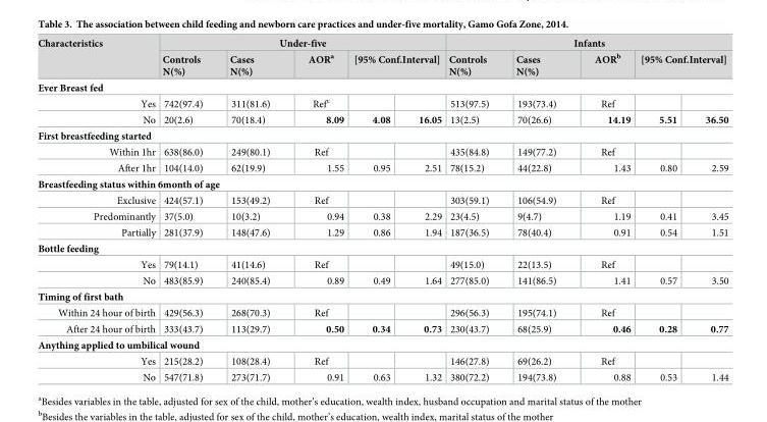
<table><thead><tr><td rowspan="2">Characteristics</td><td colspan="5">Under-five</td><td colspan="5">Infants</td></tr><tr><td>Controls N(%)</td><td>Cases N(%)</td><td>AOR<sup>a</sup></td><td colspan="2">[95% Conf.Interval]</td><td>Controls N(%)</td><td>Cases N(%)</td><td>AOR<sup>b</sup></td><td colspan="2">[95% Conf.Interval]</td></tr><tr><td colspan="11">Ever Breast fed</td></tr><tr><td>Yes</td><td>742(97.4)</td><td>311(81.6)</td><td>Ref<sup>c</sup></td><td></td><td></td><td>513(97.5)</td><td>193(73.4)</td><td>Ref</td><td></td><td></td></tr></thead><tbody><tr><td>No</td><td>20(2.6)</td><td>70(18.4)</td><td>8.09</td><td>4.08</td><td>16.05</td><td>13(2.5)</td><td>70(26.6)</td><td>14.19</td><td>5.51</td><td>36.50</td></tr><tr><td colspan="11">First breastfeeding started</td></tr><tr><td>Within 1hr</td><td>638(86.0)</td><td>249(80.1)</td><td>Ref</td><td></td><td></td><td>435(84.8)</td><td>149(77.2)</td><td>Ref</td><td></td><td></td></tr><tr><td>After 1hr</td><td>104(14.0)</td><td>62(19.9)</td><td>1.55</td><td>0.95</td><td>2.51</td><td>78(15.2)</td><td>44(22.8)</td><td>1.43</td><td>0.80</td><td>2.59</td></tr><tr><td colspan="11">Breastfeeding status within 6month of age</td></tr><tr><td>Exclusive</td><td>424(57.1)</td><td>153(49.2)</td><td>Ref</td><td></td><td></td><td>303(59.1)</td><td>106(54.9)</td><td>Ref</td><td></td><td></td></tr><tr><td>Predominantly</td><td>37(5.0)</td><td>10(3.2)</td><td>0.94</td><td>0.38</td><td>2.29</td><td>23(4.5)</td><td>9(4.7)</td><td>1.19</td><td>0.41</td><td>3.45</td></tr><tr><td>Partially</td><td>281(37.9)</td><td>148(47.6)</td><td>1.29</td><td>0.86</td><td>1.94</td><td>187(36.5)</td><td>78(40.4)</td><td>0.91</td><td>0.54</td><td>1.51</td></tr><tr><td colspan="11">Bottle feeding</td></tr><tr><td>Yes</td><td>79(14.1)</td><td>41(14.6)</td><td>Ref</td><td></td><td></td><td>49(15.0)</td><td>22(13.5)</td><td>Ref</td><td></td><td></td></tr><tr><td>No</td><td>483(85.9)</td><td>240(85.4)</td><td>0.89</td><td>0.49</td><td>1.64</td><td>277(85.0)</td><td>141(86.5)</td><td>1.41</td><td>0.57</td><td>3.50</td></tr><tr><td colspan="11">Timing of first bath</td></tr><tr><td>Within 24 hour of birth</td><td>429(56.3)</td><td>268(70.3)</td><td>Ref</td><td></td><td></td><td>296(56.3)</td><td>195(74.1)</td><td>Ref</td><td></td><td></td></tr><tr><td>After 24 hour of birth</td><td>333(43.7)</td><td>113(29.7)</td><td>0.50</td><td>0.34</td><td>0.73</td><td>230(43.7)</td><td>68(25.9)</td><td>0.46</td><td>0.28</td><td>0.77</td></tr><tr><td colspan="11">Anything applied to umbilical wound</td></tr><tr><td>Yes</td><td>215(28.2)</td><td>108(28.4)</td><td>Ref</td><td></td><td></td><td>146(27.8)</td><td>69(26.2)</td><td>Ref</td><td></td><td></td></tr><tr><td>No</td><td>547(71.8)</td><td>273(71.7)</td><td>0.91</td><td>0.63</td><td>1.32</td><td>380(72.2)</td><td>194(73.8)</td><td>0.88</td><td>0.53</td><td>1.44</td></tr></tbody></table>